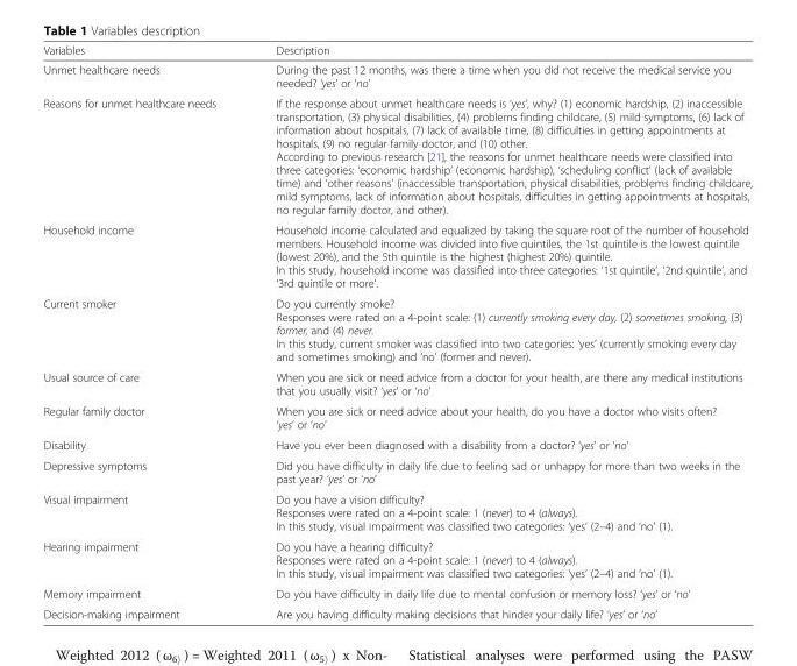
<table><thead><tr><td>Variables</td><td>Description</td></tr></thead><tbody><tr><td>Unmet healthcare needs</td><td>During the past 12 months, was there a time when you did not receive the medical service you needed? ‘yes’ or ‘no’</td></tr><tr><td>Reasons for unmet healthcare needs</td><td>If the response about unmet healthcare needs is ‘yes’, why? (1) economic hardship, (2) inaccessible transportation, (3) physical disabilities, (4) problems finding childcare, (5) mild symptoms, (6) lack of information about hospitals, (7) lack of available time, (8) difficulties in getting appointments at hospitals, (9) no regular family doctor, and (10) other. According to previous research [21], the reasons for unmet healthcare needs were classified into three categories: ‘economic hardship’ (economic hardship), ‘scheduling conflict’ (lack of available time) and ‘other reasons’ (inaccessible transportation, physical disabilities, problems finding childcare, mild symptoms, lack of information about hospitals, difficulties in getting appointments at hospitals, no regular family doctor, and other).</td></tr><tr><td>Household income</td><td>Household income calculated and equalized by taking the square root of the number of household members. Household income was divided into five quintiles, the 1st quintile is the lowest quintile (lowest 20%), and the 5th quintile is the highest (highest 20%) quintile. In this study, household income was classified into three categories: ‘1st quintile’, ‘2nd quintile’, and ‘3rd quintile or more’.</td></tr><tr><td>Current smoker</td><td>Do you currently smoke? Responses were rated on a 4-point scale: (1) currently smoking every day, (2) sometimes smoking, (3) former, and (4) never. In this study, current smoker was classified into two categories: ‘yes’ (currently smoking every day and sometimes smoking) and ‘no’ (former and never).</td></tr><tr><td>Usual source of care</td><td>When you are sick or need advice from a doctor for your health, are there any medical institutions that you usually visit? ‘yes’ or ‘no’</td></tr><tr><td>Regular family doctor</td><td>When you are sick or need advice about your health, do you have a doctor who visits often? ‘yes’ or ‘no’</td></tr><tr><td>Disability</td><td>Have you ever been diagnosed with a disability from a doctor? ‘yes’ or ‘no’</td></tr><tr><td>Depressive symptoms</td><td>Did you have difficulty in daily life due to feeling sad or unhappy for more than two weeks in the past year? ‘yes’ or ‘no’</td></tr><tr><td>Visual impairment</td><td>Do you have a vision difficulty? Responses were rated on a 4-point scale: 1 (never) to 4 (always). In this study, visual impairment was classified two categories: ‘yes’ (2–4) and ‘no’ (1).</td></tr><tr><td>Hearing impairment</td><td>Do you have a hearing difficulty? Responses were rated on a 4-point scale: 1 (never) to 4 (always). In this study, visual impairment was classified two categories: ‘yes’ (2–4) and ‘no’ (1).</td></tr><tr><td>Memory impairment</td><td>Do you have difficulty in daily life due to mental confusion or memory loss? ‘yes’ or ‘no’</td></tr><tr><td>Decision-making impairment</td><td>Are you having difficulty making decisions that hinder your daily life? ‘yes’ or ‘no’</td></tr></tbody></table>